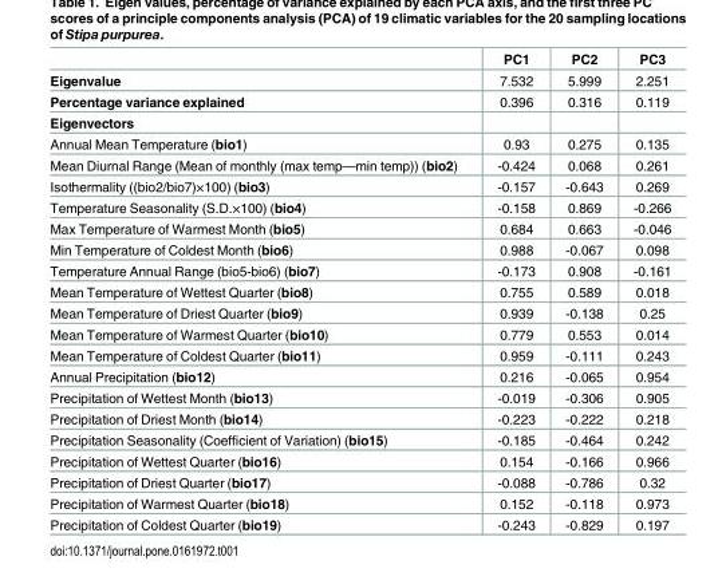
<table><thead><tr><td></td><td>PC1</td><td>PC2</td><td>PC3</td></tr></thead><tbody><tr><td>Eigenvalue</td><td>7.532</td><td>5.999</td><td>2.251</td></tr><tr><td>Percentage variance explained</td><td>0.396</td><td>0.316</td><td>0.119</td></tr><tr><td colspan="4">Eigenvectors</td></tr><tr><td>Annual Mean Temperature (bio1)</td><td>0.93</td><td>0.275</td><td>0.135</td></tr><tr><td>Mean Diurnal Range (Mean of monthly (max temp—min temp)) (bio2)</td><td>-0.424</td><td>0.068</td><td>0.261</td></tr><tr><td>Isothermality ((bio2/bio7)×100) (bio3)</td><td>-0.157</td><td>-0.643</td><td>0.269</td></tr><tr><td>Temperature Seasonality (S.D.×100) (bio4)</td><td>-0.158</td><td>0.869</td><td>-0.266</td></tr><tr><td>Max Temperature of Warmest Month (bio5)</td><td>0.684</td><td>0.663</td><td>-0.046</td></tr><tr><td>Min Temperature of Coldest Month (bio6)</td><td>0.988</td><td>-0.067</td><td>0.098</td></tr><tr><td>Temperature Annual Range (bio5-bio6) (bio7)</td><td>-0.173</td><td>0.908</td><td>-0.161</td></tr><tr><td>Mean Temperature of Wettest Quarter (bio8)</td><td>0.755</td><td>0.589</td><td>0.018</td></tr><tr><td>Mean Temperature of Driest Quarter (bio9)</td><td>0.939</td><td>-0.138</td><td>0.25</td></tr><tr><td>Mean Temperature of Warmest Quarter (bio10)</td><td>0.779</td><td>0.553</td><td>0.014</td></tr><tr><td>Mean Temperature of Coldest Quarter (bio11)</td><td>0.959</td><td>-0.111</td><td>0.243</td></tr><tr><td>Annual Precipitation (bio12)</td><td>0.216</td><td>-0.065</td><td>0.954</td></tr><tr><td>Precipitation of Wettest Month (bio13)</td><td>-0.019</td><td>-0.306</td><td>0.905</td></tr><tr><td>Precipitation of Driest Month (bio14)</td><td>-0.223</td><td>-0.222</td><td>0.218</td></tr><tr><td>Precipitation Seasonality (Coefficient of Variation) (bio15)</td><td>-0.185</td><td>-0.464</td><td>0.242</td></tr><tr><td>Precipitation of Wettest Quarter (bio16)</td><td>0.154</td><td>-0.166</td><td>0.966</td></tr><tr><td>Precipitation of Driest Quarter (bio17)</td><td>-0.088</td><td>-0.786</td><td>0.32</td></tr><tr><td>Precipitation of Warmest Quarter (bio18)</td><td>0.152</td><td>-0.118</td><td>0.973</td></tr><tr><td>Precipitation of Coldest Quarter (bio19)</td><td>-0.243</td><td>-0.829</td><td>0.197</td></tr></tbody></table>